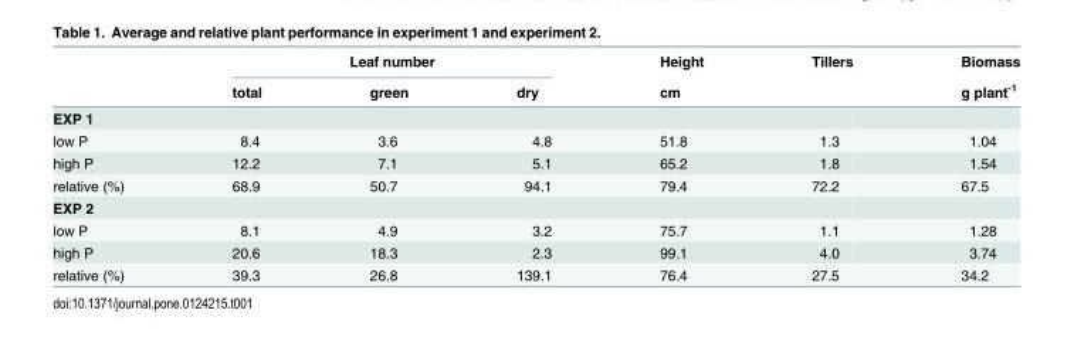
<table><thead><tr><td rowspan="2"></td><td colspan="3">Leaf number</td><td rowspan="2">Height cm</td><td rowspan="2">Tillers</td><td rowspan="2">Biomass g plant<sup>-1</sup></td></tr><tr><td>total</td><td>green</td><td>dry</td></tr></thead><tbody><tr><td colspan="7">EXP 1</td></tr><tr><td>low P</td><td>8.4</td><td>3.6</td><td>4.8</td><td>51.8</td><td>1.3</td><td>1.04</td></tr><tr><td>high P</td><td>12.2</td><td>7.1</td><td>5.1</td><td>65.2</td><td>1.8</td><td>1.54</td></tr><tr><td>relative (%)</td><td>68.9</td><td>50.7</td><td>94.1</td><td>79.4</td><td>72.2</td><td>67.5</td></tr><tr><td colspan="7">EXP 2</td></tr><tr><td>low P</td><td>8.1</td><td>4.9</td><td>3.2</td><td>75.7</td><td>1.1</td><td>1.28</td></tr><tr><td>high P</td><td>20.6</td><td>18.3</td><td>2.3</td><td>99.1</td><td>4.0</td><td>3.74</td></tr><tr><td>relative (%)</td><td>39.3</td><td>26.8</td><td>139.1</td><td>76.4</td><td>27.5</td><td>34.2</td></tr></tbody></table>